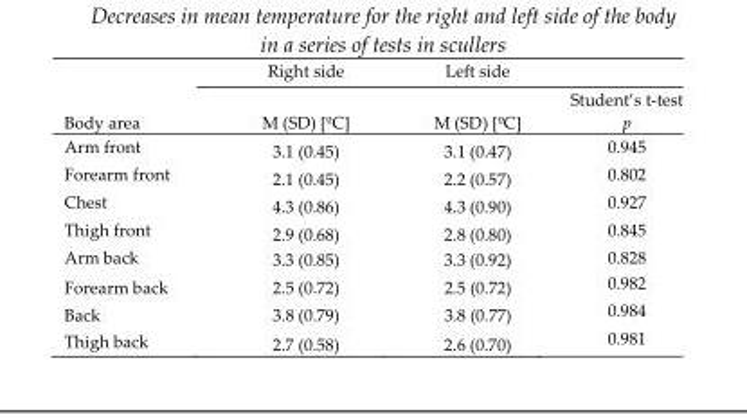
<table><thead><tr><td rowspan="2">Body area</td><td rowspan="2">Right side M (SD) [ºC]</td><td rowspan="2">Left side M (SD) [ºC]</td><td rowspan="2">Student’s t-test p</td></tr><tr></tr></thead><tbody><tr><td>Arm front</td><td>3.1 (0.45)</td><td>3.1 (0.47)</td><td>0.945</td></tr><tr><td>Forearm front</td><td>2.1 (0.45)</td><td>2.2 (0.57)</td><td>0.802</td></tr><tr><td>Chest</td><td>4.3 (0.86)</td><td>4.3 (0.90)</td><td>0.927</td></tr><tr><td>Thigh front</td><td>2.9 (0.68)</td><td>2.8 (0.80)</td><td>0.845</td></tr><tr><td>Arm back</td><td>3.3 (0.85)</td><td>3.3 (0.92)</td><td>0.828</td></tr><tr><td>Forearm back</td><td>2.5 (0.72)</td><td>2.5 (0.72)</td><td>0.982</td></tr><tr><td>Back</td><td>3.8 (0.79)</td><td>3.8 (0.77)</td><td>0.984</td></tr><tr><td>Thigh back</td><td>2.7 (0.58)</td><td>2.6 (0.70)</td><td>0.981</td></tr></tbody></table>